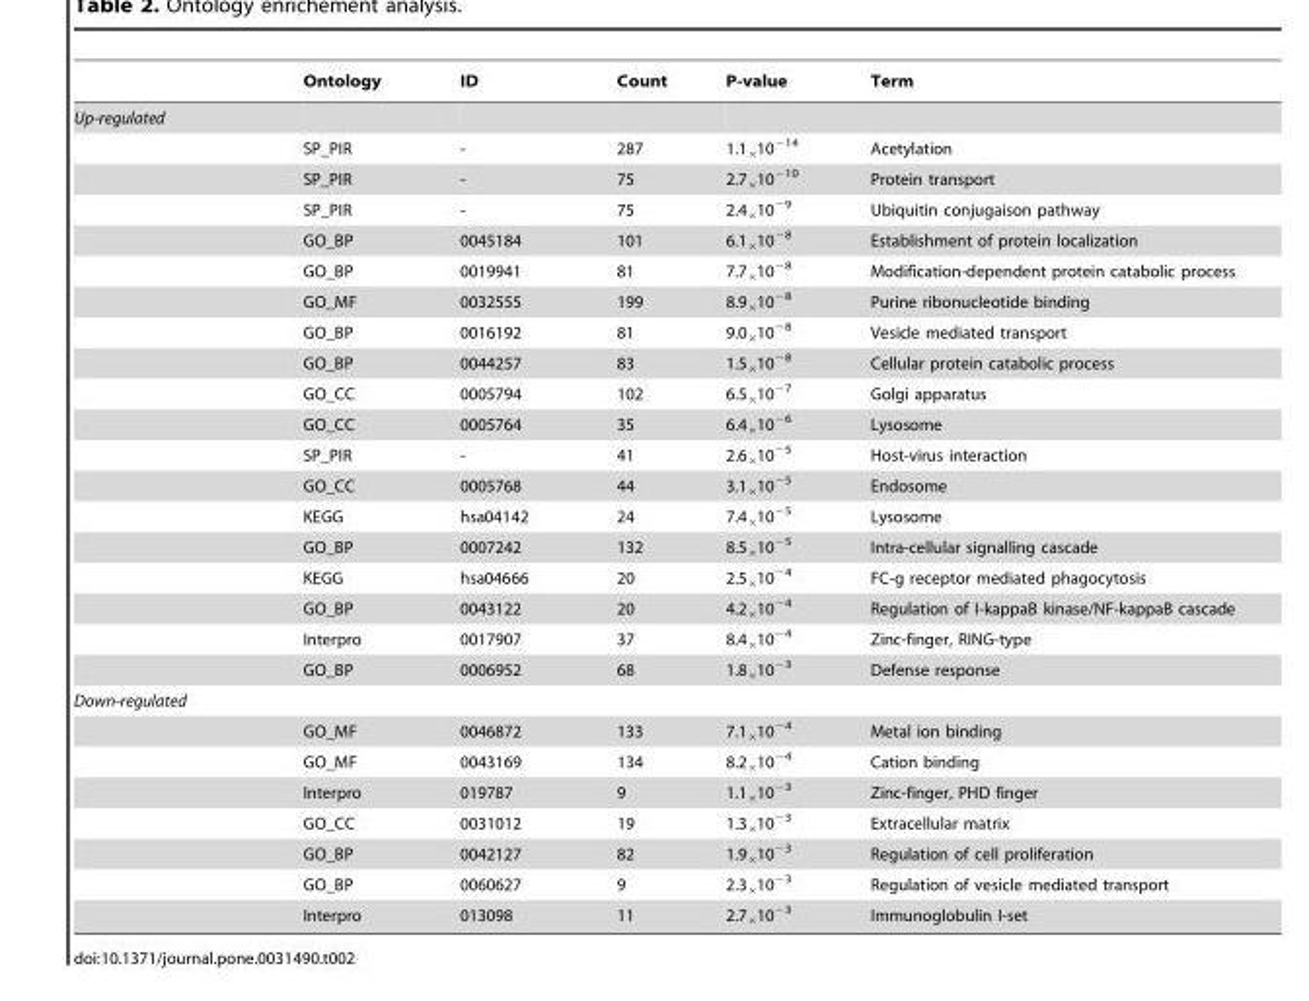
<table><thead><tr><td></td><td>Ontology</td><td>ID</td><td>Count</td><td>P-value</td><td>Term</td></tr></thead><tbody><tr><td colspan="6">Up-regulated</td></tr><tr><td></td><td>SP_PIR</td><td>-</td><td>287</td><td>1.1×10−14</td><td>Acetylation</td></tr><tr><td></td><td>SP_PIR</td><td>-</td><td>75</td><td>2.7×10−10</td><td>Protein transport</td></tr><tr><td></td><td>SP_PIR</td><td>-</td><td>75</td><td>2.4×10−9</td><td>Ubiquitin conjugaison pathway</td></tr><tr><td></td><td>GO_BP</td><td>0045184</td><td>101</td><td>6.1×10−8</td><td>Establishment of protein localization</td></tr><tr><td></td><td>GO_BP</td><td>0019941</td><td>81</td><td>7.7×10−8</td><td>Modification-dependent protein catabolic process</td></tr><tr><td></td><td>GO_MF</td><td>0032555</td><td>199</td><td>8.9×10−8</td><td>Purine ribonucleotide binding</td></tr><tr><td></td><td>GO_BP</td><td>0016192</td><td>81</td><td>9.0×10−8</td><td>Vesicle mediated transport</td></tr><tr><td></td><td>GO_BP</td><td>0044257</td><td>83</td><td>1.5×10−8</td><td>Cellular protein catabolic process</td></tr><tr><td></td><td>GO_CC</td><td>0005794</td><td>102</td><td>6.5×10−7</td><td>Golgi apparatus</td></tr><tr><td></td><td>GO_CC</td><td>0005764</td><td>35</td><td>6.4×10−6</td><td>Lysosome</td></tr><tr><td></td><td>SP_PIR</td><td>-</td><td>41</td><td>2.6×10−5</td><td>Host-virus interaction</td></tr><tr><td></td><td>GO_CC</td><td>0005768</td><td>44</td><td>3.1×10−5</td><td>Endosome</td></tr><tr><td></td><td>KEGG</td><td>hsa04142</td><td>24</td><td>7.4×10−5</td><td>Lysosome</td></tr><tr><td></td><td>GO_BP</td><td>0007242</td><td>132</td><td>8.5×10−5</td><td>Intra-cellular signalling cascade</td></tr><tr><td></td><td>KEGG</td><td>hsa04666</td><td>20</td><td>2.5×10−4</td><td>FC-g receptor mediated phagocytosis</td></tr><tr><td></td><td>GO_BP</td><td>0043122</td><td>20</td><td>4.2×10−4</td><td>Regulation of I-kappaB kinase/NF-kappaB cascade</td></tr><tr><td></td><td>Interpro</td><td>0017907</td><td>37</td><td>8.4×10−4</td><td>Zinc-finger, RING-type</td></tr><tr><td></td><td>GO_BP</td><td>0006952</td><td>68</td><td>1.8×10−3</td><td>Defense response</td></tr><tr><td colspan="6">Down-regulated</td></tr><tr><td></td><td>GO_MF</td><td>0046872</td><td>133</td><td>7.1×10−4</td><td>Metal ion binding</td></tr><tr><td></td><td>GO_MF</td><td>0043169</td><td>134</td><td>8.2×10−4</td><td>Cation binding</td></tr><tr><td></td><td>Interpro</td><td>019787</td><td>9</td><td>1.1×10−3</td><td>Zinc-finger, PHD finger</td></tr><tr><td></td><td>GO_CC</td><td>0031012</td><td>19</td><td>1.3×10−3</td><td>Extracellular matrix</td></tr><tr><td></td><td>GO_BP</td><td>0042127</td><td>82</td><td>1.9×10−3</td><td>Regulation of cell proliferation</td></tr><tr><td></td><td>GO_BP</td><td>0060627</td><td>9</td><td>2.3×10−3</td><td>Regulation of vesicle mediated transport</td></tr><tr><td></td><td>Interpro</td><td>013098</td><td>11</td><td>2.7×10−3</td><td>Immunoglobulin I-set</td></tr></tbody></table>